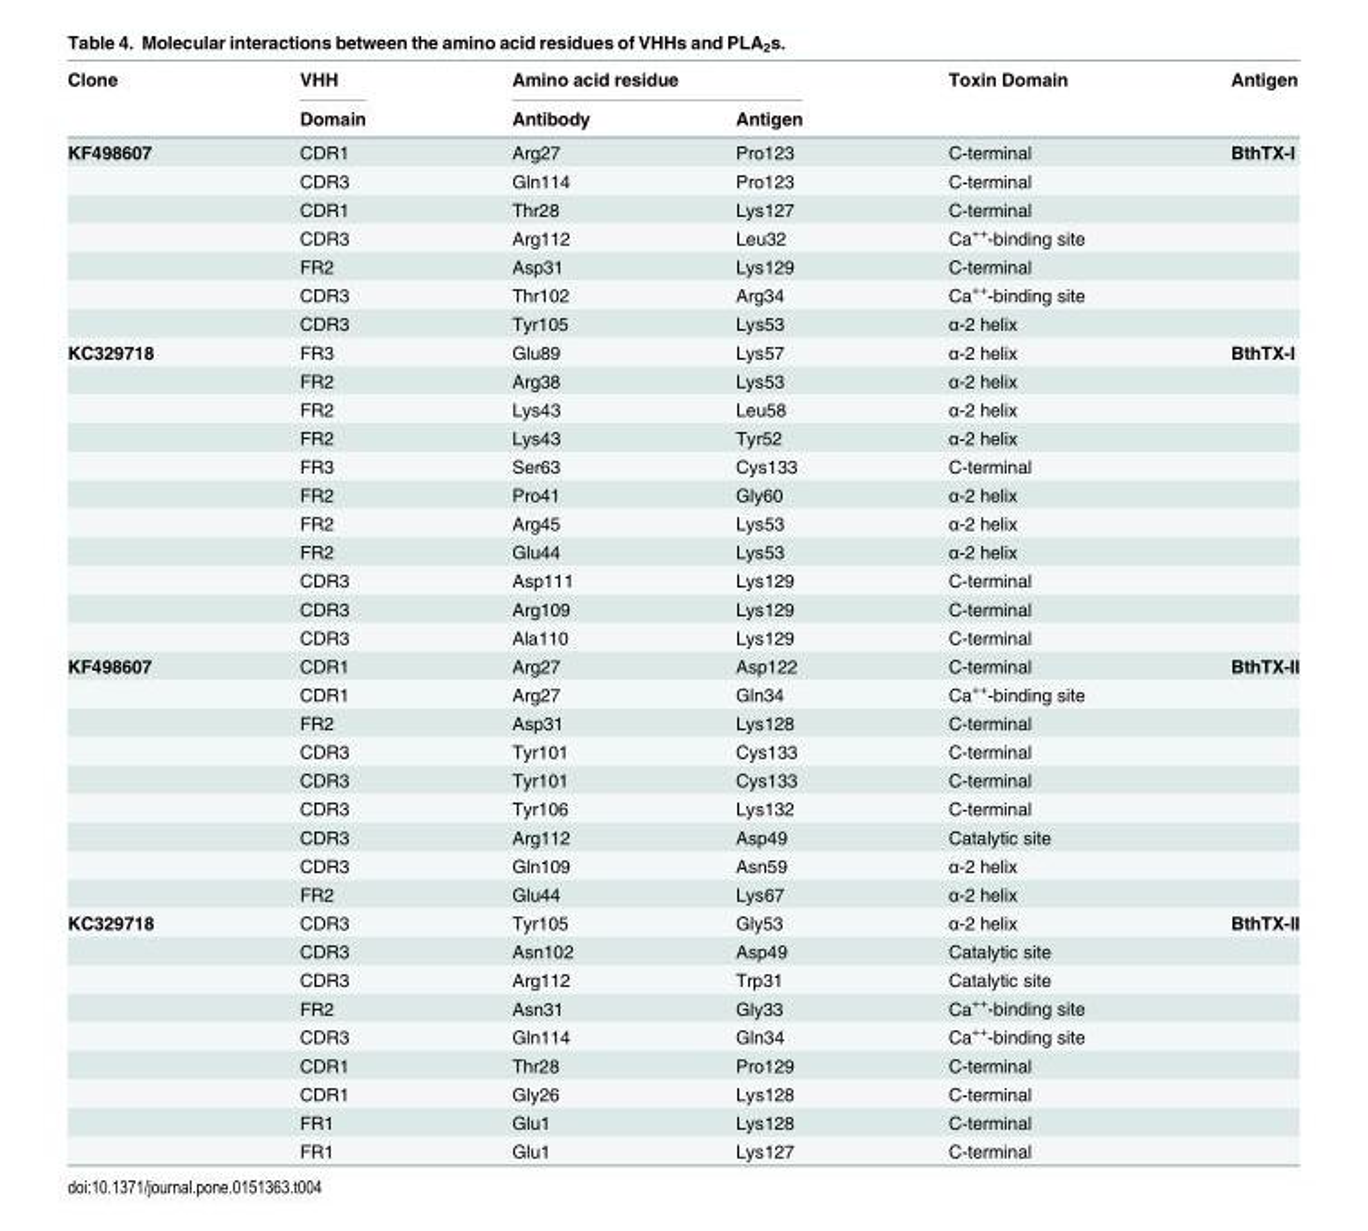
<table><thead><tr><td rowspan="2">Clone</td><td rowspan="2">VHH Domain</td><td colspan="2">Amino acid residue</td><td rowspan="2">Toxin Domain</td><td rowspan="2">Antigen</td></tr><tr><td>Antibody</td><td>Antigen</td></tr></thead><tbody><tr><td rowspan="7">KF498607</td><td>CDR1</td><td>Arg27</td><td>Pro123</td><td>C-terminal</td><td>BthTX-I</td></tr><tr><td>CDR3</td><td>Gln114</td><td>Pro123</td><td>C-terminal</td><td></td></tr><tr><td>CDR1</td><td>Thr28</td><td>Lys127</td><td>C-terminal</td><td></td></tr><tr><td>CDR3</td><td>Arg112</td><td>Leu32</td><td>Ca<sup>++</sup>-binding site</td><td></td></tr><tr><td>FR2</td><td>Asp31</td><td>Lys129</td><td>C-terminal</td><td></td></tr><tr><td>CDR3</td><td>Thr102</td><td>Arg34</td><td>Ca<sup>++</sup>-binding site</td><td></td></tr><tr><td>CDR3</td><td>Tyr105</td><td>Lys53</td><td>α-2 helix</td><td></td></tr><tr><td rowspan="11">KC329718</td><td>FR3</td><td>Glu89</td><td>Lys57</td><td>α-2 helix</td><td>BthTX-I</td></tr><tr><td>FR2</td><td>Arg38</td><td>Lys53</td><td>α-2 helix</td><td></td></tr><tr><td>FR2</td><td>Lys43</td><td>Leu58</td><td>α-2 helix</td><td></td></tr><tr><td>FR2</td><td>Lys43</td><td>Tyr52</td><td>α-2 helix</td><td></td></tr><tr><td>FR3</td><td>Ser63</td><td>Cys133</td><td>C-terminal</td><td></td></tr><tr><td>FR2</td><td>Pro41</td><td>Gly60</td><td>α-2 helix</td><td></td></tr><tr><td>FR2</td><td>Arg45</td><td>Lys53</td><td>α-2 helix</td><td></td></tr><tr><td>FR2</td><td>Glu44</td><td>Lys53</td><td>α-2 helix</td><td></td></tr><tr><td>CDR3</td><td>Asp111</td><td>Lys129</td><td>C-terminal</td><td></td></tr><tr><td>CDR3</td><td>Arg109</td><td>Lys129</td><td>C-terminal</td><td></td></tr><tr><td>CDR3</td><td>Ala110</td><td>Lys129</td><td>C-terminal</td><td></td></tr><tr><td rowspan="9">KF498607</td><td>CDR1</td><td>Arg27</td><td>Asp122</td><td>C-terminal</td><td>BthTX-II</td></tr><tr><td>CDR1</td><td>Arg27</td><td>Gln34</td><td>Ca<sup>++</sup>-binding site</td><td></td></tr><tr><td>FR2</td><td>Asp31</td><td>Lys128</td><td>C-terminal</td><td></td></tr><tr><td>CDR3</td><td>Tyr101</td><td>Cys133</td><td>C-terminal</td><td></td></tr><tr><td>CDR3</td><td>Tyr101</td><td>Cys133</td><td>C-terminal</td><td></td></tr><tr><td>CDR3</td><td>Tyr106</td><td>Lys132</td><td>C-terminal</td><td></td></tr><tr><td>CDR3</td><td>Arg112</td><td>Asp49</td><td>Catalytic site</td><td></td></tr><tr><td>CDR3</td><td>Gln109</td><td>Asn59</td><td>α-2 helix</td><td></td></tr><tr><td>FR2</td><td>Glu44</td><td>Lys67</td><td>α-2 helix</td><td></td></tr><tr><td rowspan="9">KC329718</td><td>CDR3</td><td>Tyr105</td><td>Gly53</td><td>α-2 helix</td><td>BthTX-II</td></tr><tr><td>CDR3</td><td>Asn102</td><td>Asp49</td><td>Catalytic site</td><td></td></tr><tr><td>CDR3</td><td>Arg112</td><td>Trp31</td><td>Catalytic site</td><td></td></tr><tr><td>FR2</td><td>Asn31</td><td>Gly33</td><td>Ca<sup>++</sup>-binding site</td><td></td></tr><tr><td>CDR3</td><td>Gln114</td><td>Gln34</td><td>Ca<sup>++</sup>-binding site</td><td></td></tr><tr><td>CDR1</td><td>Thr28</td><td>Pro129</td><td>C-terminal</td><td></td></tr><tr><td>CDR1</td><td>Gly26</td><td>Lys128</td><td>C-terminal</td><td></td></tr><tr><td>FR1</td><td>Glu1</td><td>Lys128</td><td>C-terminal</td><td></td></tr><tr><td>FR1</td><td>Glu1</td><td>Lys127</td><td>C-terminal</td><td></td></tr></tbody></table>